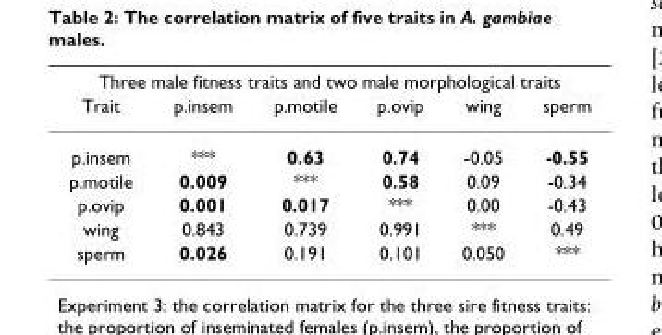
<table><thead><tr><td colspan="6">Three male fitness traits and two male morphological traits</td></tr><tr><td>Trait</td><td>p.insem</td><td>p.motile</td><td>p.ovip</td><td>wing</td><td>sperm</td></tr></thead><tbody><tr><td>p.insem</td><td>***</td><td>0.63</td><td>0.74</td><td>-0.05</td><td>-0.55</td></tr><tr><td>p.motile</td><td>0.009</td><td>***</td><td>0.58</td><td>0.09</td><td>-0.34</td></tr><tr><td>p.ovip</td><td>0.001</td><td>0.017</td><td>***</td><td>0.00</td><td>-0.43</td></tr><tr><td>wing</td><td>0.843</td><td>0.739</td><td>0.991</td><td>***</td><td>0.49</td></tr><tr><td>sperm</td><td>0.026</td><td>0.191</td><td>0.101</td><td>0.050</td><td>***</td></tr></tbody></table>